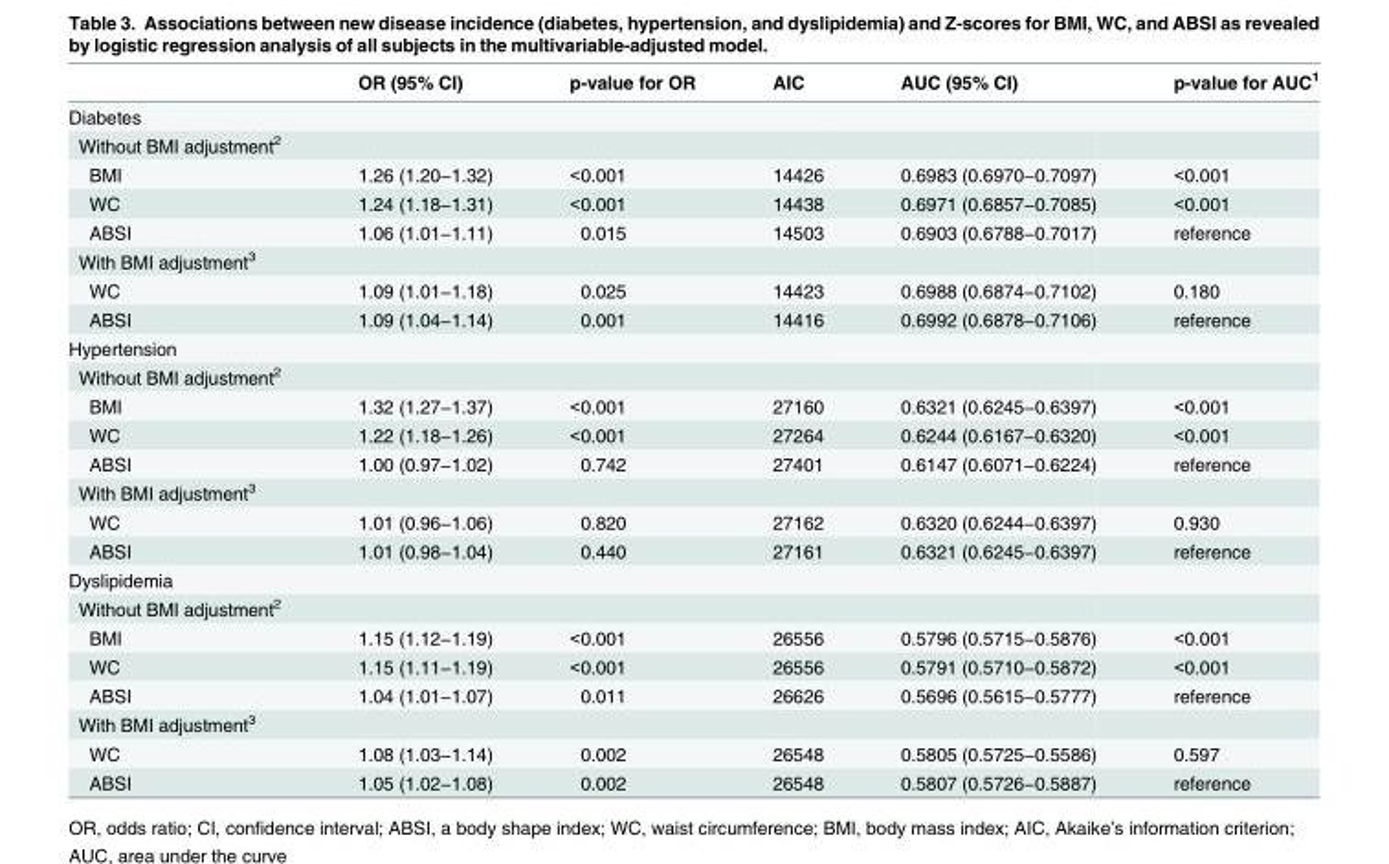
<table><thead><tr><td></td><td>OR (95% CI)</td><td>p-value for OR</td><td>AIC</td><td>AUC (95% CI)</td><td>p-value for AUC<sup>1</sup></td></tr></thead><tbody><tr><td colspan="6">Diabetes</td></tr><tr><td colspan="6">Without BMI adjustment<sup>2</sup></td></tr><tr><td>BMI</td><td>1.26 (1.20−1.32)</td><td>&lt;0.001</td><td>14426</td><td>0.6983 (0.6970−0.7097)</td><td>&lt;0.001</td></tr><tr><td>WC</td><td>1.24 (1.18−1.31)</td><td>&lt;0.001</td><td>14438</td><td>0.6971 (0.6857−0.7085)</td><td>&lt;0.001</td></tr><tr><td>ABSI</td><td>1.06 (1.01−1.11)</td><td>0.015</td><td>14503</td><td>0.6903 (0.6788−0.7017)</td><td>reference</td></tr><tr><td colspan="6">With BMI adjustment<sup>3</sup></td></tr><tr><td>WC</td><td>1.09 (1.01−1.18)</td><td>0.025</td><td>14423</td><td>0.6988 (0.6874−0.7102)</td><td>0.180</td></tr><tr><td>ABSI</td><td>1.09 (1.04−1.14)</td><td>0.001</td><td>14416</td><td>0.6992 (0.6878−0.7106)</td><td>reference</td></tr><tr><td colspan="6">Hypertension</td></tr><tr><td colspan="6">Without BMI adjustment<sup>2</sup></td></tr><tr><td>BMI</td><td>1.32 (1.27−1.37)</td><td>&lt;0.001</td><td>27160</td><td>0.6321 (0.6245−0.6397)</td><td>&lt;0.001</td></tr><tr><td>WC</td><td>1.22 (1.18−1.26)</td><td>&lt;0.001</td><td>27264</td><td>0.6244 (0.6167−0.6320)</td><td>&lt;0.001</td></tr><tr><td>ABSI</td><td>1.00 (0.97−1.02)</td><td>0.742</td><td>27401</td><td>0.6147 (0.6071−0.6224)</td><td>reference</td></tr><tr><td colspan="6">With BMI adjustment<sup>3</sup></td></tr><tr><td>WC</td><td>1.01 (0.96−1.06)</td><td>0.820</td><td>27162</td><td>0.6320 (0.6244−0.6397)</td><td>0.930</td></tr><tr><td>ABSI</td><td>1.01 (0.98−1.04)</td><td>0.440</td><td>27161</td><td>0.6321 (0.6245−0.6397)</td><td>reference</td></tr><tr><td colspan="6">Dyslipidemia</td></tr><tr><td colspan="6">Without BMI adjustment<sup>2</sup></td></tr><tr><td>BMI</td><td>1.15 (1.12−1.19)</td><td>&lt;0.001</td><td>26556</td><td>0.5796 (0.5715−0.5876)</td><td>&lt;0.001</td></tr><tr><td>WC</td><td>1.15 (1.11−1.19)</td><td>&lt;0.001</td><td>26556</td><td>0.5791 (0.5710−0.5872)</td><td>&lt;0.001</td></tr><tr><td>ABSI</td><td>1.04 (1.01−1.07)</td><td>0.011</td><td>26626</td><td>0.5696 (0.5615−0.5777)</td><td>reference</td></tr><tr><td colspan="6">With BMI adjustment<sup>3</sup></td></tr><tr><td>WC</td><td>1.08 (1.03−1.14)</td><td>0.002</td><td>26548</td><td>0.5805 (0.5725−0.5586)</td><td>0.597</td></tr><tr><td>ABSI</td><td>1.05 (1.02−1.08)</td><td>0.002</td><td>26548</td><td>0.5807 (0.5726−0.5887)</td><td>reference</td></tr></tbody></table>